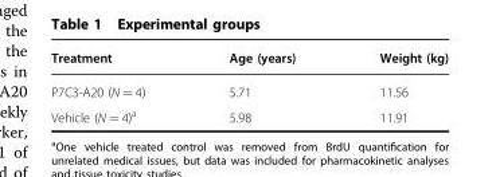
<table><thead><tr><td>Treatment</td><td>Age (years)</td><td>Weight (kg)</td></tr></thead><tbody><tr><td>P7C3-A20 (N = 4)</td><td>5.71</td><td>11.56</td></tr><tr><td>Vehicle (N = 4)<sup>a</sup></td><td>5.98</td><td>11.91</td></tr></tbody></table>